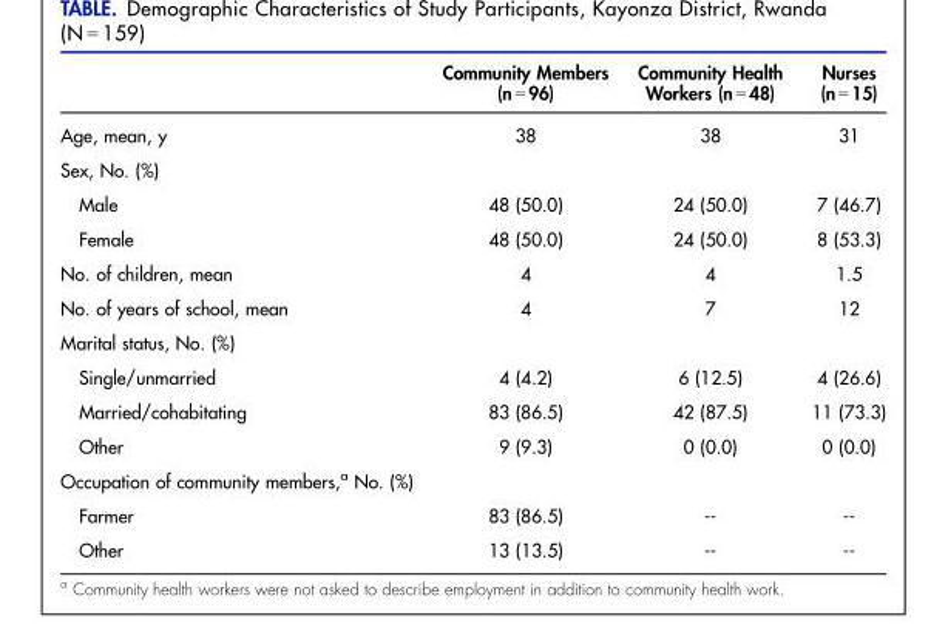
<table><thead><tr><td></td><td>Community Members (n = 96)</td><td>Community Health Workers (n = 48)</td><td>Nurses (n = 15)</td></tr></thead><tbody><tr><td>Age, mean, y</td><td>38</td><td>38</td><td>31</td></tr><tr><td colspan="4">Sex, No. (%)</td></tr><tr><td>Male</td><td>48 (50.0)</td><td>24 (50.0)</td><td>7 (46.7)</td></tr><tr><td>Female</td><td>48 (50.0)</td><td>24 (50.0)</td><td>8 (53.3)</td></tr><tr><td>No. of children, mean</td><td>4</td><td>4</td><td>1.5</td></tr><tr><td>No. of years of school, mean</td><td>4</td><td>7</td><td>12</td></tr><tr><td colspan="4">Marital status, No. (%)</td></tr><tr><td>Single/unmarried</td><td>4 (4.2)</td><td>6 (12.5)</td><td>4 (26.6)</td></tr><tr><td>Married/cohabitating</td><td>83 (86.5)</td><td>42 (87.5)</td><td>11 (73.3)</td></tr><tr><td>Other</td><td>9 (9.3)</td><td>0 (0.0)</td><td>0 (0.0)</td></tr><tr><td colspan="4">Occupation of community members,<sup>a</sup> No. (%)</td></tr><tr><td>Farmer</td><td>83 (86.5)</td><td>--</td><td>--</td></tr><tr><td>Other</td><td>13 (13.5)</td><td>--</td><td>--</td></tr></tbody></table>